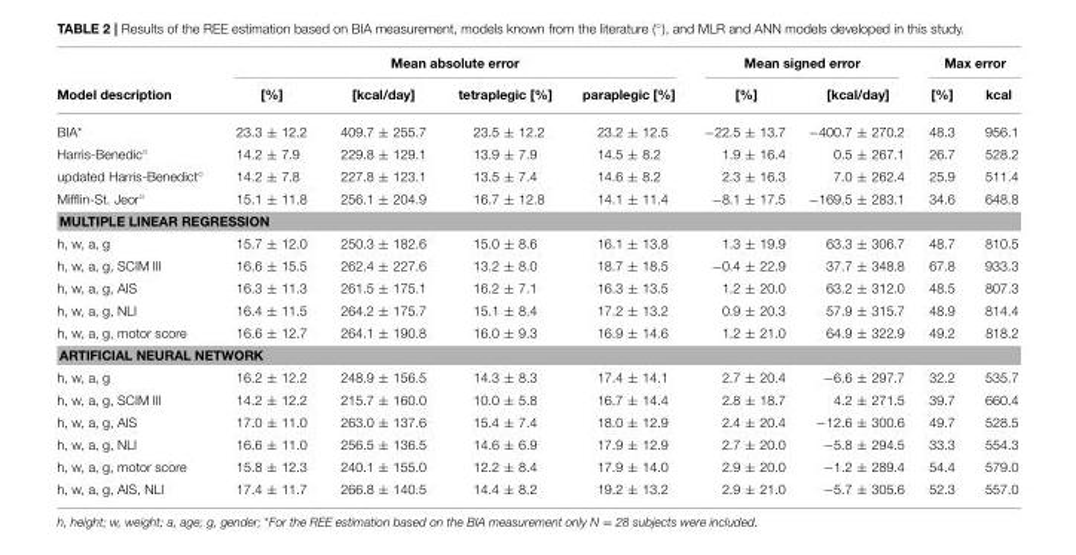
<table><thead><tr><td rowspan="2">Model description</td><td colspan="4">Mean absolute error</td><td colspan="2">Mean signed error</td><td colspan="2">Max error</td></tr><tr><td>[%]</td><td>[kcal/day]</td><td>tetraplegic [%]</td><td>paraplegic [%]</td><td>[%]</td><td>[kcal/day]</td><td>[%]</td><td>kcal</td></tr></thead><tbody><tr><td>BIA*</td><td>23.3 ± 12.2</td><td>409.7 ± 255.7</td><td>23.5 ± 12.2</td><td>23.2 ± 12.5</td><td>−22.5 ± 13.7</td><td>−400.7 ± 270.2</td><td>48.3</td><td>956.1</td></tr><tr><td>Harris-Benedic◦</td><td>14.2 ± 7.9</td><td>229.8 ± 129.1</td><td>13.9 ± 7.9</td><td>14.5 ± 8.2</td><td>1.9 ± 16.4</td><td>0.5 ± 267.1</td><td>26.7</td><td>528.2</td></tr><tr><td>updated Harris-Benedict◦</td><td>14.2 ± 7.8</td><td>227.8 ± 123.1</td><td>13.5 ± 7.4</td><td>14.6 ± 8.2</td><td>2.3 ± 16.3</td><td>7.0 ± 262.4</td><td>25.9</td><td>511.4</td></tr><tr><td>Mifflin-St. Jeor◦</td><td>15.1 ± 11.8</td><td>256.1 ± 204.9</td><td>16.7 ± 12.8</td><td>14.1 ± 11.4</td><td>−8.1 ± 17.5</td><td>−169.5 ± 283.1</td><td>34.6</td><td>648.8</td></tr><tr><td colspan="9">MULTIPLE LINEAR REGRESSION</td></tr><tr><td>h, w, a, g</td><td>15.7 ± 12.0</td><td>250.3 ± 182.6</td><td>15.0 ± 8.6</td><td>16.1 ± 13.8</td><td>1.3 ± 19.9</td><td>63.3 ± 306.7</td><td>48.7</td><td>810.5</td></tr><tr><td>h, w, a, g, SCIM III</td><td>16.6 ± 15.5</td><td>262.4 ± 227.6</td><td>13.2 ± 8.0</td><td>18.7 ± 18.5</td><td>−0.4 ± 22.9</td><td>37.7 ± 348.8</td><td>67.8</td><td>933.3</td></tr><tr><td>h, w, a, g, AIS</td><td>16.3 ± 11.3</td><td>261.5 ± 175.1</td><td>16.2 ± 7.1</td><td>16.3 ± 13.5</td><td>1.2 ± 20.0</td><td>63.2 ± 312.0</td><td>48.5</td><td>807.3</td></tr><tr><td>h, w, a, g, NLI</td><td>16.4 ± 11.5</td><td>264.2 ± 175.7</td><td>15.1 ± 8.4</td><td>17.2 ± 13.2</td><td>0.9 ± 20.3</td><td>57.9 ± 315.7</td><td>48.9</td><td>814.4</td></tr><tr><td>h, w, a, g, motor score</td><td>16.6 ± 12.7</td><td>264.1 ± 190.8</td><td>16.0 ± 9.3</td><td>16.9 ± 14.6</td><td>1.2 ± 21.0</td><td>64.9 ± 322.9</td><td>49.2</td><td>818.2</td></tr><tr><td colspan="9">ARTIFICIAL NEURAL NETWORK</td></tr><tr><td>h, w, a, g</td><td>16.2 ± 12.2</td><td>248.9 ± 156.5</td><td>14.3 ± 8.3</td><td>17.4 ± 14.1</td><td>2.7 ± 20.4</td><td>−6.6 ± 297.7</td><td>32.2</td><td>535.7</td></tr><tr><td>h, w, a, g, SCIM III</td><td>14.2 ± 12.2</td><td>215.7 ± 160.0</td><td>10.0 ± 5.8</td><td>16.7 ± 14.4</td><td>2.8 ± 18.7</td><td>4.2 ± 271.5</td><td>39.7</td><td>660.4</td></tr><tr><td>h, w, a, g, AIS</td><td>17.0 ± 11.0</td><td>263.0 ± 137.6</td><td>15.4 ± 7.4</td><td>18.0 ± 12.9</td><td>2.4 ± 20.4</td><td>−12.6 ± 300.6</td><td>49.7</td><td>528.5</td></tr><tr><td>h, w, a, g, NLI</td><td>16.6 ± 11.0</td><td>256.5 ± 136.5</td><td>14.6 ± 6.9</td><td>17.9 ± 12.9</td><td>2.7 ± 20.0</td><td>−5.8 ± 294.5</td><td>33.3</td><td>554.3</td></tr><tr><td>h, w, a, g, motor score</td><td>15.8 ± 12.3</td><td>240.1 ± 155.0</td><td>12.2 ± 8.4</td><td>17.9 ± 14.0</td><td>2.9 ± 20.0</td><td>−1.2 ± 289.4</td><td>54.4</td><td>579.0</td></tr><tr><td>h, w, a, g, AIS, NLI</td><td>17.4 ± 11.7</td><td>266.8 ± 140.5</td><td>14.4 ± 8.2</td><td>19.2 ± 13.2</td><td>2.9 ± 21.0</td><td>−5.7 ± 305.6</td><td>52.3</td><td>557.0</td></tr></tbody></table>